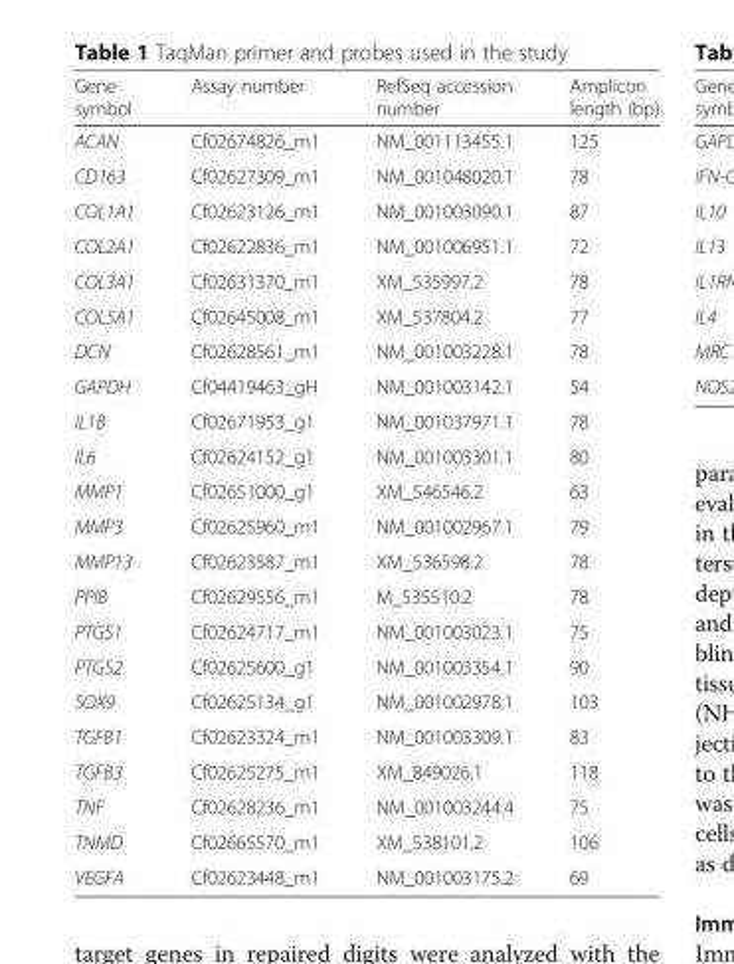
<table><thead><tr><td>Gene symbol</td><td>Assay number</td><td>RefSeq accession number</td><td>Amplicon length (bp)</td></tr></thead><tbody><tr><td>ACAN</td><td>Cf02674826_m1</td><td>NM_001113455.1</td><td>125</td></tr><tr><td>CD163</td><td>Cf02627309_m1</td><td>NM_001048020.1</td><td>78</td></tr><tr><td>COL1A1</td><td>Cf02623126_m1</td><td>NM_001003090.1</td><td>87</td></tr><tr><td>COL2A1</td><td>Cf02622836_m1</td><td>NM_001006951.1</td><td>72</td></tr><tr><td>COL3A1</td><td>Cf02631370_m1</td><td>XM_535997.2</td><td>78</td></tr><tr><td>COL5A1</td><td>Cf02645008_m1</td><td>XM_537804.2</td><td>77</td></tr><tr><td>DCN</td><td>Cf02628561_m1</td><td>NM_001003228.1</td><td>78</td></tr><tr><td>GAPDH</td><td>Cf04419463_gH</td><td>NM_001003142.1</td><td>54</td></tr><tr><td>IL1B</td><td>Cf02671953_g1</td><td>NM_001037971.1</td><td>78</td></tr><tr><td>IL6</td><td>Cf02624152_g1</td><td>NM_001003301.1</td><td>80</td></tr><tr><td>MMP1</td><td>Cf02651000_g1</td><td>XM_546546.2</td><td>63</td></tr><tr><td>MMP3</td><td>Cf02625960_m1</td><td>NM_001002967.1</td><td>79</td></tr><tr><td>MMP13</td><td>Cf02623587_m1</td><td>XM_536598.2</td><td>78</td></tr><tr><td>PPIB</td><td>Cf02629556_m1</td><td>M_535510.2</td><td>78</td></tr><tr><td>PTGS1</td><td>Cf02624717_m1</td><td>NM_001003023.1</td><td>75</td></tr><tr><td>PTGS2</td><td>Cf02625600_g1</td><td>NM_001003354.1</td><td>90</td></tr><tr><td>SOX9</td><td>Cf02625134_g1</td><td>NM_001002978.1</td><td>103</td></tr><tr><td>TGFB1</td><td>Cf02623324_m1</td><td>NM_001003309.1</td><td>83</td></tr><tr><td>TGFB3</td><td>Cf02625275_m1</td><td>XM_849026.1</td><td>118</td></tr><tr><td>TNF</td><td>Cf02628236_m1</td><td>NM_001003244.4</td><td>75</td></tr><tr><td>TNMD</td><td>Cf02665570_m1</td><td>XM_538101.2</td><td>106</td></tr><tr><td>VEGFA</td><td>Cf02623448_m1</td><td>NM_001003175.2</td><td>69</td></tr></tbody></table>